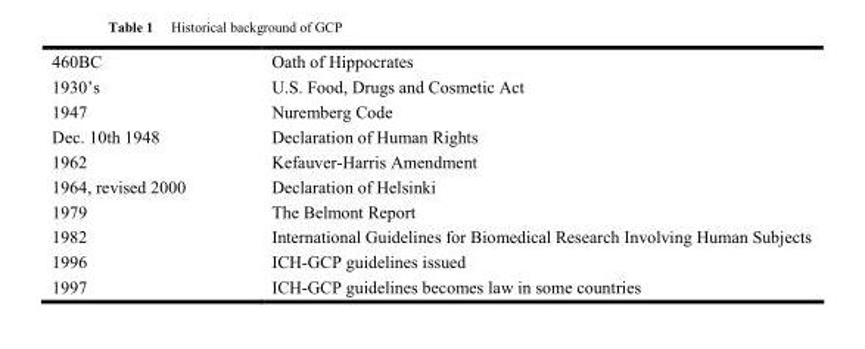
<table><tbody><tr><td>460BC</td><td>Oath of Hippocrates</td></tr><tr><td>1930’s</td><td>U.S. Food, Drugs and Cosmetic Act</td></tr><tr><td>1947</td><td>Nuremberg Code</td></tr><tr><td>Dec. 10th 1948</td><td>Declaration of Human Rights</td></tr><tr><td>1962</td><td>Kefauver-Harris Amendment</td></tr><tr><td>1964, revised 2000</td><td>Declaration of Helsinki</td></tr><tr><td>1979</td><td>The Belmont Report</td></tr><tr><td>1982</td><td>International Guidelines for Biomedical Research Involving Human Subjects</td></tr><tr><td>1996</td><td>ICH-GCP guidelines issued</td></tr><tr><td>1997</td><td>ICH-GCP guidelines becomes law in some countries</td></tr></tbody></table>